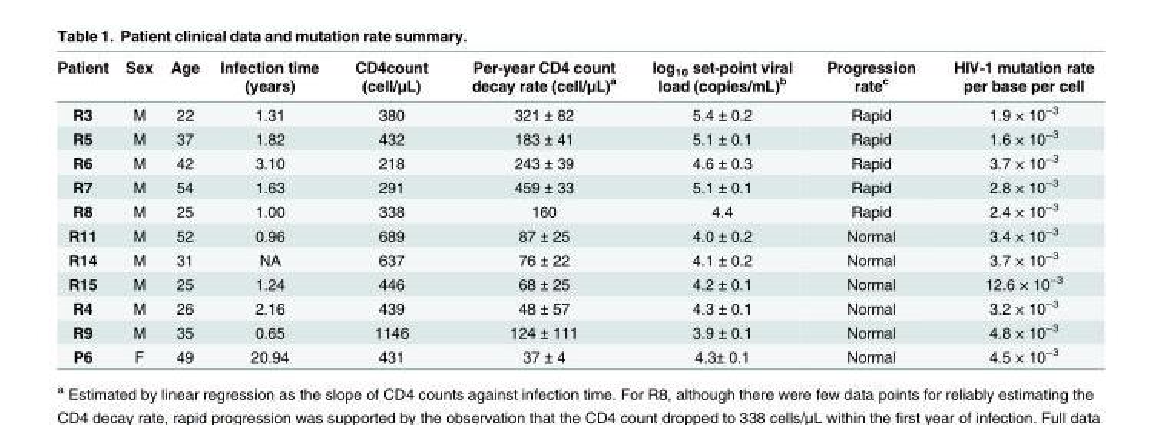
<table><thead><tr><td>Patient</td><td>Sex</td><td>Age</td><td>Infection time (years)</td><td>CD4count (cell/μL)</td><td>Per-year CD4 count decay rate (cell/μL)<sup>a</sup></td><td>log<sub>10</sub> set-point viral load (copies/mL)<sup>b</sup></td><td>Progression rate<sup>c</sup></td><td>HIV-1 mutation rate per base per cell</td></tr></thead><tbody><tr><td>R3</td><td>M</td><td>22</td><td>1.31</td><td>380</td><td>321 ± 82</td><td>5.4 ± 0.2</td><td>Rapid</td><td>1.9 × 10<sup>−3</sup></td></tr><tr><td>R5</td><td>M</td><td>37</td><td>1.82</td><td>432</td><td>183 ± 41</td><td>5.1 ± 0.1</td><td>Rapid</td><td>1.6 × 10<sup>−3</sup></td></tr><tr><td>R6</td><td>M</td><td>42</td><td>3.10</td><td>218</td><td>243 ± 39</td><td>4.6 ± 0.3</td><td>Rapid</td><td>3.7 × 10<sup>−3</sup></td></tr><tr><td>R7</td><td>M</td><td>54</td><td>1.63</td><td>291</td><td>459 ± 33</td><td>5.1 ± 0.1</td><td>Rapid</td><td>2.8 × 10<sup>−3</sup></td></tr><tr><td>R8</td><td>M</td><td>25</td><td>1.00</td><td>338</td><td>160</td><td>4.4</td><td>Rapid</td><td>2.4 × 10<sup>−3</sup></td></tr><tr><td>R11</td><td>M</td><td>52</td><td>0.96</td><td>689</td><td>87 ± 25</td><td>4.0 ± 0.2</td><td>Normal</td><td>3.4 × 10<sup>−3</sup></td></tr><tr><td>R14</td><td>M</td><td>31</td><td>NA</td><td>637</td><td>76 ± 22</td><td>4.1 ± 0.2</td><td>Normal</td><td>3.7 × 10<sup>−3</sup></td></tr><tr><td>R15</td><td>M</td><td>25</td><td>1.24</td><td>446</td><td>68 ± 25</td><td>4.2 ± 0.1</td><td>Normal</td><td>12.6 × 10<sup>−3</sup></td></tr><tr><td>R4</td><td>M</td><td>26</td><td>2.16</td><td>439</td><td>48 ± 57</td><td>4.3 ± 0.1</td><td>Normal</td><td>3.2 × 10<sup>−3</sup></td></tr><tr><td>R9</td><td>M</td><td>35</td><td>0.65</td><td>1146</td><td>124 ± 111</td><td>3.9 ± 0.1</td><td>Normal</td><td>4.8 × 10<sup>−3</sup></td></tr><tr><td>P6</td><td>F</td><td>49</td><td>20.94</td><td>431</td><td>37 ± 4</td><td>4.3± 0.1</td><td>Normal</td><td>4.5 × 10<sup>−3</sup></td></tr></tbody></table>